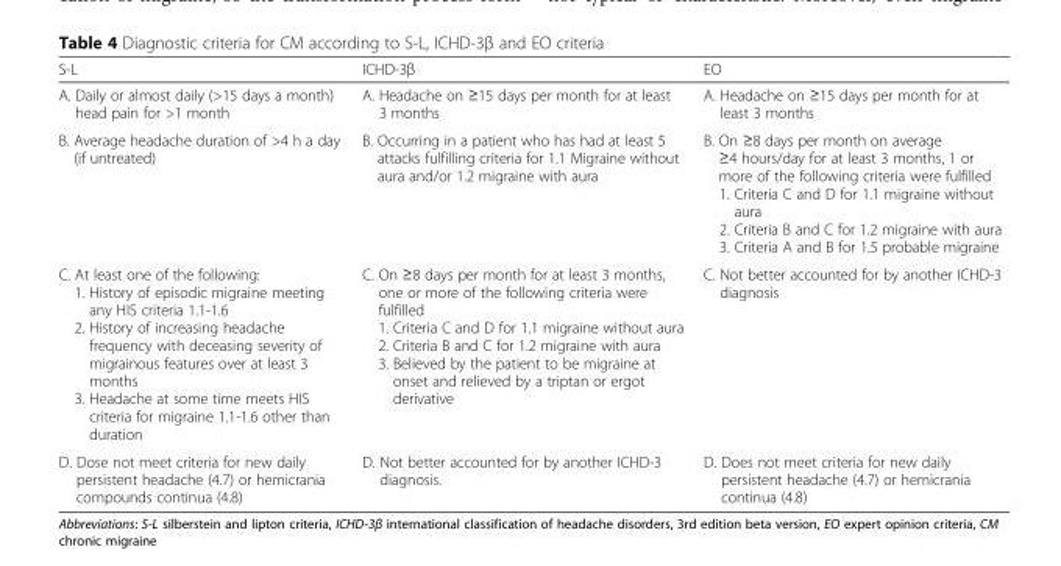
<table><thead><tr><td>S-L</td><td>ICHD-3β</td><td>EO</td></tr></thead><tbody><tr><td>A. Daily or almost daily (&gt;15 days a month) head pain for &gt;1 month</td><td>A. Headache on ≥15 days per month for at least 3 months</td><td>A. Headache on ≥15 days per month for at least 3 months</td></tr><tr><td>B. Average headache duration of &gt;4 h a day (if untreated)</td><td>B. Occurring in a patient who has had at least 5 attacks fulfilling criteria for 1.1 Migraine without aura and/or 1.2 migraine with aura</td><td>B. On ≥8 days per month on average ≥4 hours/day for at least 3 months, 1 or more of the following criteria were fulfilled 1. Criteria C and D for 1.1 migraine without aura 2. Criteria B and C for 1.2 migraine with aura 3. Criteria A and B for 1.5 probable migraine</td></tr><tr><td>C. At least one of the following: 1. History of episodic migraine meeting any HIS criteria 1.1-1.6 2. History of increasing headache frequency with deceasing severity of migrainous features over at least 3 months 3. Headache at some time meets HIS criteria for migraine 1.1-1.6 other than duration</td><td>C. On ≥8 days per month for at least 3 months, one or more of the following criteria were fulfilled 1. Criteria C and D for 1.1 migraine without aura 2. Criteria B and C for 1.2 migraine with aura 3. Believed by the patient to be migraine at onset and relieved by a triptan or ergot derivative</td><td>C. Not better accounted for by another ICHD-3 diagnosis</td></tr><tr><td>D. Dose not meet criteria for new daily persistent headache (4.7) or hemicrania compounds continua (4.8)</td><td>D. Not better accounted for by another ICHD-3 diagnosis.</td><td>D. Does not meet criteria for new daily persistent headache (4.7) or hemicrania continua (4.8)</td></tr></tbody></table>